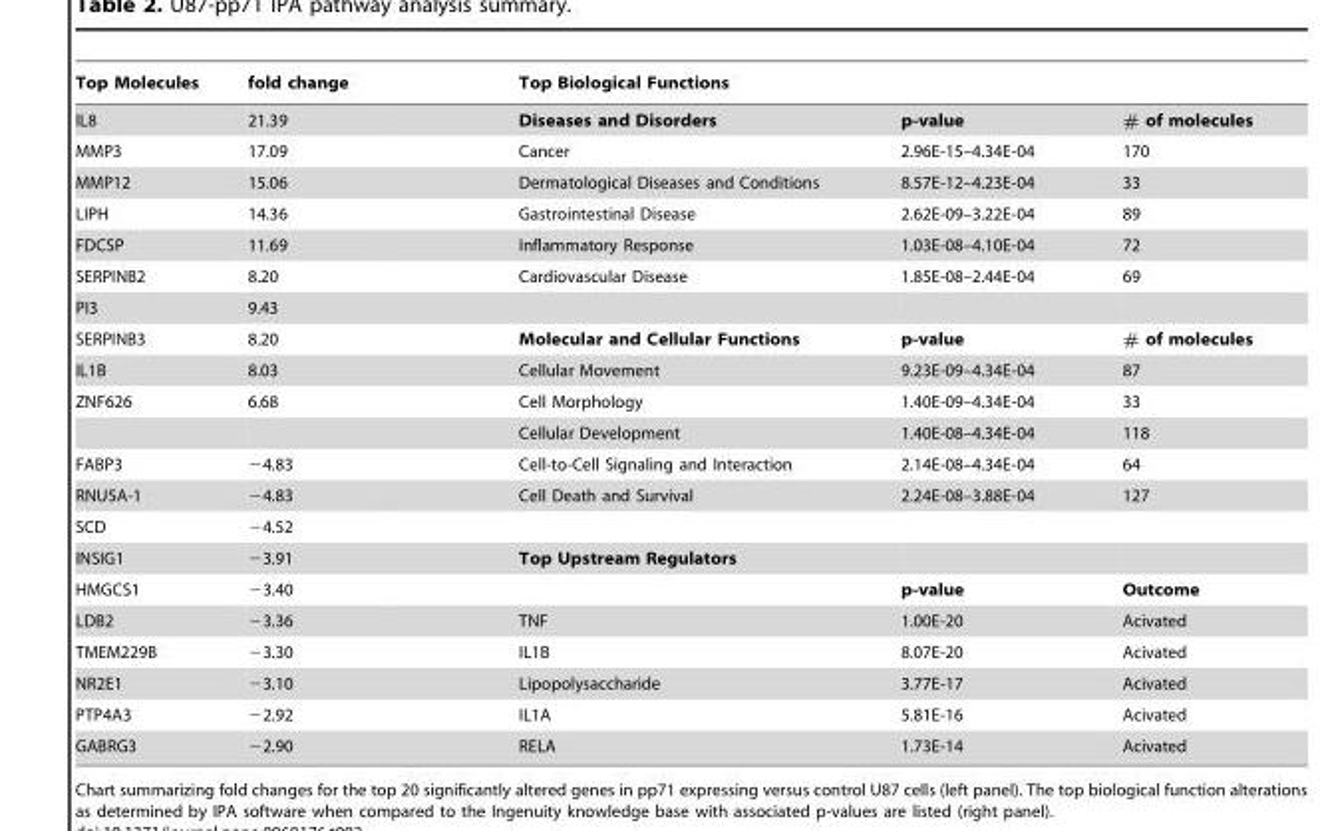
<table><thead><tr><td>Top Molecules</td><td>fold change</td><td>Top Biological Functions</td><td></td><td></td></tr></thead><tbody><tr><td>IL8</td><td>21.39</td><td>Diseases and Disorders</td><td>p-value</td><td># of molecules</td></tr><tr><td>MMP3</td><td>17.09</td><td>Cancer</td><td>2.96E-15–4.34E-04</td><td>170</td></tr><tr><td>MMP12</td><td>15.06</td><td>Dermatological Diseases and Conditions</td><td>8.57E-12–4.23E-04</td><td>33</td></tr><tr><td>LIPH</td><td>14.36</td><td>Gastrointestinal Disease</td><td>2.62E-09–3.22E-04</td><td>89</td></tr><tr><td>FDCSP</td><td>11.69</td><td>Inflammatory Response</td><td>1.03E-08–4.10E-04</td><td>72</td></tr><tr><td>SERPINB2</td><td>8.20</td><td>Cardiovascular Disease</td><td>1.85E-08–2.44E-04</td><td>69</td></tr><tr><td>PI3</td><td>9.43</td><td></td><td></td><td></td></tr><tr><td>SERPINB3</td><td>8.20</td><td>Molecular and Cellular Functions</td><td>p-value</td><td># of molecules</td></tr><tr><td>IL1B</td><td>8.03</td><td>Cellular Movement</td><td>9.23E-09–4.34E-04</td><td>87</td></tr><tr><td rowspan="2">ZNF626</td><td>6.68</td><td>Cell Morphology</td><td>1.40E-09–4.34E-04</td><td>33</td></tr><tr><td></td><td>Cellular Development</td><td>1.40E-08–4.34E-04</td><td>118</td></tr><tr><td>FABP3</td><td>−4.83</td><td>Cell-to-Cell Signaling and Interaction</td><td>2.14E-08–4.34E-04</td><td>64</td></tr><tr><td>RNU5A-1</td><td>−4.83</td><td>Cell Death and Survival</td><td>2.24E-08–3.88E-04</td><td>127</td></tr><tr><td>SCD</td><td>−4.52</td><td></td><td></td><td></td></tr><tr><td>INSIG1</td><td>−3.91</td><td>Top Upstream Regulators</td><td></td><td></td></tr><tr><td>HMGCS1</td><td>−3.40</td><td></td><td>p-value</td><td>Outcome</td></tr><tr><td>LDB2</td><td>−3.36</td><td>TNF</td><td>1.00E-20</td><td>Acivated</td></tr><tr><td>TMEM229B</td><td>−3.30</td><td>IL1B</td><td>8.07E-20</td><td>Acivated</td></tr><tr><td>NR2E1</td><td>−3.10</td><td>Lipopolysaccharide</td><td>3.77E-17</td><td>Acivated</td></tr><tr><td>PTP4A3</td><td>−2.92</td><td>IL1A</td><td>5.81E-16</td><td>Acivated</td></tr><tr><td>GABRG3</td><td>−2.90</td><td>RELA</td><td>1.73E-14</td><td>Acivated</td></tr></tbody></table>